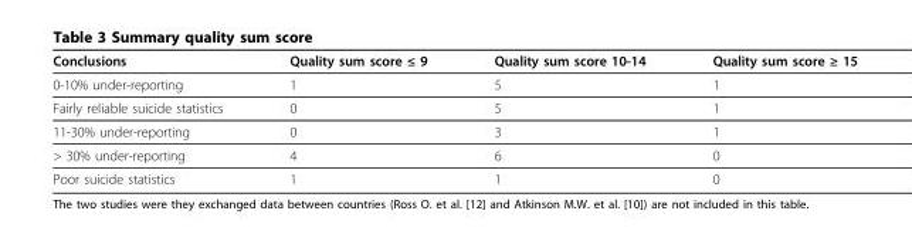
<table><thead><tr><td>Conclusions</td><td>Quality sum score ≤ 9</td><td>Quality sum score 10-14</td><td>Quality sum score ≥ 15</td></tr></thead><tbody><tr><td>0-10% under-reporting</td><td>1</td><td>5</td><td>1</td></tr><tr><td>Fairly reliable suicide statistics</td><td>0</td><td>5</td><td>1</td></tr><tr><td>11-30% under-reporting</td><td>0</td><td>3</td><td>1</td></tr><tr><td>&gt; 30% under-reporting</td><td>4</td><td>6</td><td>0</td></tr><tr><td>Poor suicide statistics</td><td>1</td><td>1</td><td>0</td></tr></tbody></table>